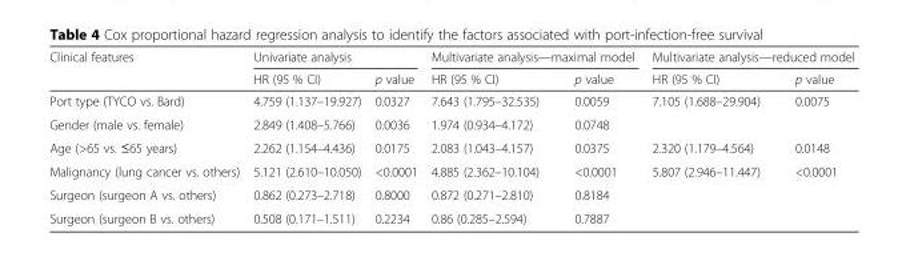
<table><thead><tr><td rowspan="2">Clinical features</td><td colspan="2">Univariate analysis</td><td colspan="2">Multivariate analysis—maximal model</td><td colspan="2">Multivariate analysis—reduced model</td></tr><tr><td>HR (95 % CI)</td><td>p value</td><td>HR (95 % CI)</td><td>p value</td><td>HR (95 % CI)</td><td>p value</td></tr></thead><tbody><tr><td>Port type (TYCO vs. Bard)</td><td>4.759 (1.137–19.927)</td><td>0.0327</td><td>7.643 (1.795–32.535)</td><td>0.0059</td><td>7.105 (1.688–29.904)</td><td>0.0075</td></tr><tr><td>Gender (male vs. female)</td><td>2.849 (1.408–5.766)</td><td>0.0036</td><td>1.974 (0.934–4.172)</td><td>0.0748</td><td></td><td></td></tr><tr><td>Age (&gt;65 vs. ≤65 years)</td><td>2.262 (1.154–4.436)</td><td>0.0175</td><td>2.083 (1.043–4.157)</td><td>0.0375</td><td>2.320 (1.179–4.564)</td><td>0.0148</td></tr><tr><td>Malignancy (lung cancer vs. others)</td><td>5.121 (2.610–10.050)</td><td>&lt;0.0001</td><td>4.885 (2.362–10.104)</td><td>&lt;0.0001</td><td>5.807 (2.946–11.447)</td><td>&lt;0.0001</td></tr><tr><td>Surgeon (surgeon A vs. others)</td><td>0.862 (0.273–2.718)</td><td>0.8000</td><td>0.872 (0.271–2.810)</td><td>0.8184</td><td></td><td></td></tr><tr><td>Surgeon (surgeon B vs. others)</td><td>0.508 (0.171–1.511)</td><td>0.2234</td><td>0.86 (0.285–2.594)</td><td>0.7887</td><td></td><td></td></tr></tbody></table>